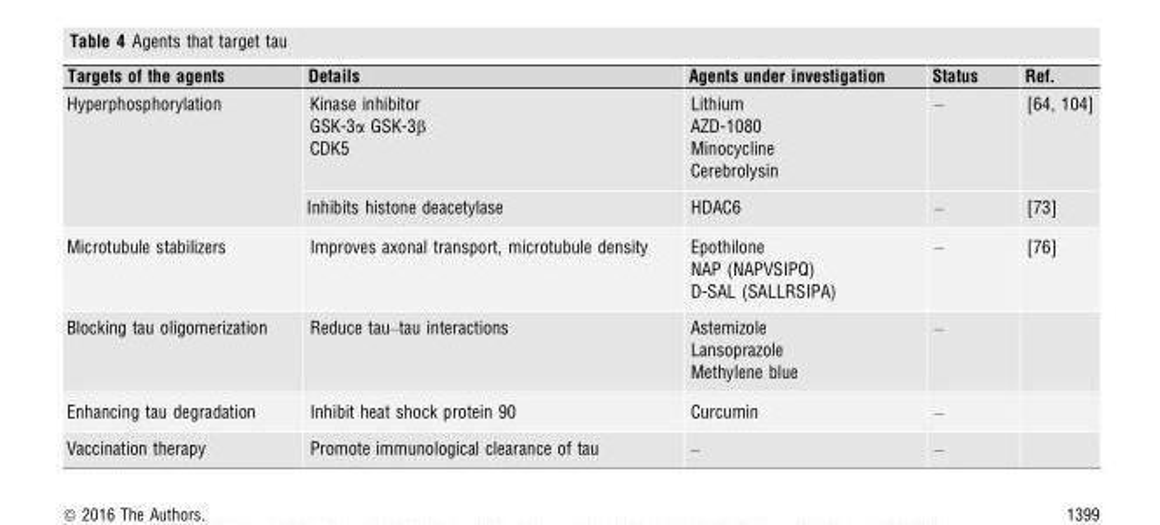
<table><thead><tr><td>Targets of the agents</td><td>Details</td><td>Agents under investigation</td><td>Status</td><td>Ref.</td></tr></thead><tbody><tr><td rowspan="2">Hyperphosphorylation</td><td>Kinase inhibitor GSK-3α GSK-3β CDK5</td><td>Lithium AZD-1080 Minocycline Cerebrolysin</td><td>–</td><td>[64, 104]</td></tr><tr><td>Inhibits histone deacetylase</td><td>HDAC6</td><td>–</td><td>[73]</td></tr><tr><td>Microtubule stabilizers</td><td>Improves axonal transport, microtubule density</td><td>Epothilone NAP (NAPVSIPQ) D-SAL (SALLRSIPA)</td><td>–</td><td>[76]</td></tr><tr><td>Blocking tau oligomerization</td><td>Reduce tau–tau interactions</td><td>Astemizole Lansoprazole Methylene blue</td><td>–</td><td></td></tr><tr><td>Enhancing tau degradation</td><td>Inhibit heat shock protein 90</td><td>Curcumin</td><td>–</td><td></td></tr><tr><td>Vaccination therapy</td><td>Promote immunological clearance of tau</td><td>–</td><td>–</td><td></td></tr></tbody></table>